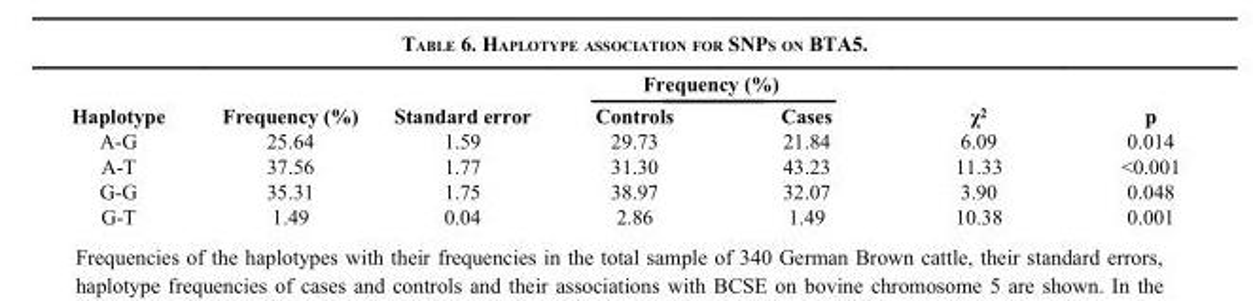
<table><thead><tr><td rowspan="2">Haplotype</td><td rowspan="2">Frequency (%)</td><td rowspan="2">Standard error</td><td colspan="2">Frequency (%)</td><td rowspan="2">χ<sup>2</sup></td><td rowspan="2">p</td></tr><tr><td>Controls</td><td>Cases</td></tr></thead><tbody><tr><td>A-G</td><td>25.64</td><td>1.59</td><td>29.73</td><td>21.84</td><td>6.09</td><td>0.014</td></tr><tr><td>A-T</td><td>37.56</td><td>1.77</td><td>31.30</td><td>43.23</td><td>11.33</td><td>&lt;0.001</td></tr><tr><td>G-G</td><td>35.31</td><td>1.75</td><td>38.97</td><td>32.07</td><td>3.90</td><td>0.048</td></tr><tr><td>G-T</td><td>1.49</td><td>0.04</td><td>2.86</td><td>1.49</td><td>10.38</td><td>0.001</td></tr></tbody></table>